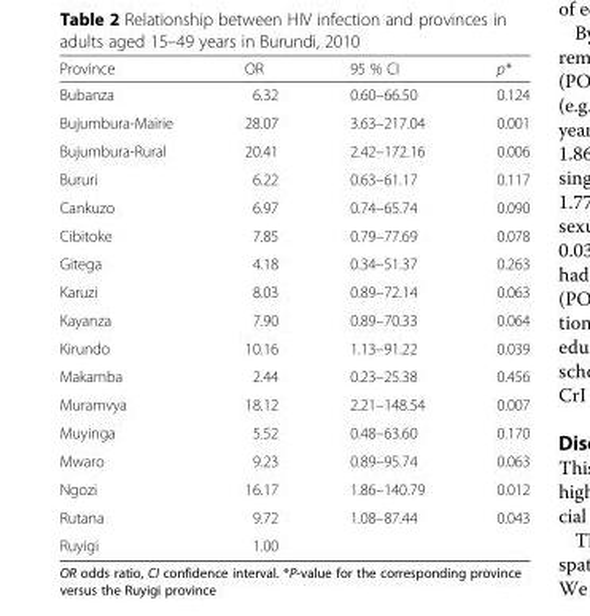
<table><thead><tr><td>Province</td><td>OR</td><td>95 % CI</td><td>p*</td></tr></thead><tbody><tr><td>Bubanza</td><td>6.32</td><td>0.60–66.50</td><td>0.124</td></tr><tr><td>Bujumbura-Mairie</td><td>28.07</td><td>3.63–217.04</td><td>0.001</td></tr><tr><td>Bujumbura-Rural</td><td>20.41</td><td>2.42–172.16</td><td>0.006</td></tr><tr><td>Bururi</td><td>6.22</td><td>0.63–61.17</td><td>0.117</td></tr><tr><td>Cankuzo</td><td>6.97</td><td>0.74–65.74</td><td>0.090</td></tr><tr><td>Cibitoke</td><td>7.85</td><td>0.79–77.69</td><td>0.078</td></tr><tr><td>Gitega</td><td>4.18</td><td>0.34–51.37</td><td>0.263</td></tr><tr><td>Karuzi</td><td>8.03</td><td>0.89–72.14</td><td>0.063</td></tr><tr><td>Kayanza</td><td>7.90</td><td>0.89–70.33</td><td>0.064</td></tr><tr><td>Kirundo</td><td>10.16</td><td>1.13–91.22</td><td>0.039</td></tr><tr><td>Makamba</td><td>2.44</td><td>0.23–25.38</td><td>0.456</td></tr><tr><td>Muramvya</td><td>18.12</td><td>2.21–148.54</td><td>0.007</td></tr><tr><td>Muyinga</td><td>5.52</td><td>0.48–63.60</td><td>0.170</td></tr><tr><td>Mwaro</td><td>9.23</td><td>0.89–95.74</td><td>0.063</td></tr><tr><td>Ngozi</td><td>16.17</td><td>1.86–140.79</td><td>0.012</td></tr><tr><td>Rutana</td><td>9.72</td><td>1.08–87.44</td><td>0.043</td></tr><tr><td>Ruyigi</td><td>1.00</td><td></td><td></td></tr></tbody></table>